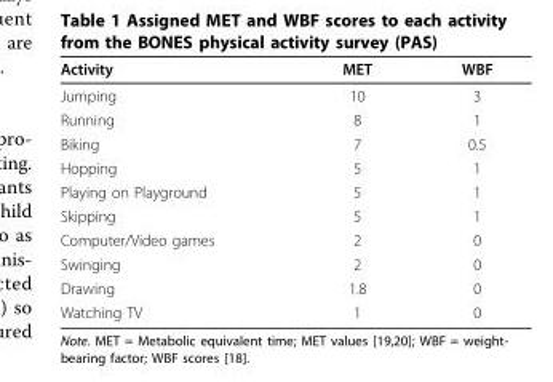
<table><thead><tr><td>Activity</td><td>MET</td><td>WBF</td></tr></thead><tbody><tr><td>Jumping</td><td>10</td><td>3</td></tr><tr><td>Running</td><td>8</td><td>1</td></tr><tr><td>Biking</td><td>7</td><td>0.5</td></tr><tr><td>Hopping</td><td>5</td><td>1</td></tr><tr><td>Playing on Playground</td><td>5</td><td>1</td></tr><tr><td>Skipping</td><td>5</td><td>1</td></tr><tr><td>Computer/Video games</td><td>2</td><td>0</td></tr><tr><td>Swinging</td><td>2</td><td>0</td></tr><tr><td>Drawing</td><td>1.8</td><td>0</td></tr><tr><td>Watching TV</td><td>1</td><td>0</td></tr></tbody></table>